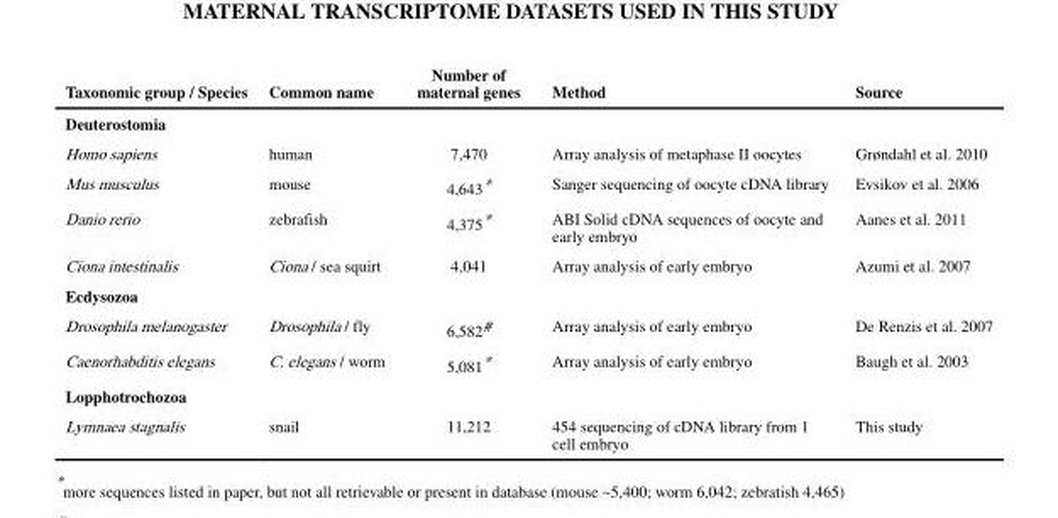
<table><thead><tr><td>Taxonomic group / Species</td><td>Common name</td><td>Number of maternal genes</td><td>Method</td><td>Source</td></tr></thead><tbody><tr><td colspan="5">Deuterostomia</td></tr><tr><td>Homo sapiens</td><td>human</td><td>7,470</td><td>Array analysis of metaphase II oocytes</td><td>Grøndahl et al. 2010</td></tr><tr><td>Mus musculus</td><td>mouse</td><td>4,643*</td><td>Sanger sequencing of oocyte cDNA library</td><td>Evsikov et al. 2006</td></tr><tr><td>Danio rerio</td><td>zebrafish</td><td>4,375*</td><td>ABI Solid cDNA sequences of oocyte and early embryo</td><td>Aanes et al. 2011</td></tr><tr><td>Ciona intestinalis</td><td>Ciona / sea squirt</td><td>4,041</td><td>Array analysis of early embryo</td><td>Azumi et al. 2007</td></tr><tr><td colspan="5">Ecdysozoa</td></tr><tr><td>Drosophila melanogaster</td><td>Drosophila / fly</td><td>6,582#</td><td>Array analysis of early embryo</td><td>De Renzis et al. 2007</td></tr><tr><td>Caenorhabditis elegans</td><td>C. elegans / worm</td><td>5,081*</td><td>Array analysis of early embryo</td><td>Baugh et al. 2003</td></tr><tr><td colspan="5">Lopphotrochozoa</td></tr><tr><td>Lymnaea stagnalis</td><td>snail</td><td>11,212</td><td>454 sequencing of cDNA library from 1 cell embryo</td><td>This study</td></tr></tbody></table>